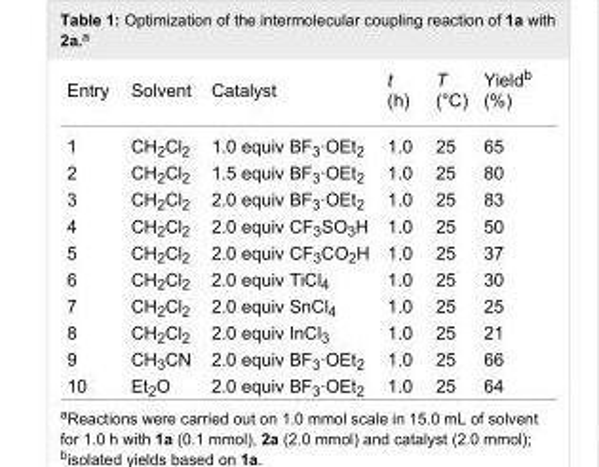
<table><tbody><tr><td>Entry</td><td>Solvent</td><td>Catalyst</td><td>t (h)</td><td>T (°C)</td><td>Yield<sup>b</sup> (%)</td></tr><tr><td>1</td><td>CH<sub>2</sub>Cl<sub>2</sub></td><td>1.0 equiv BF<sub>3</sub>·OEt<sub>2</sub></td><td>1.0</td><td>25</td><td>65</td></tr><tr><td>2</td><td>CH<sub>2</sub>Cl<sub>2</sub></td><td>1.5 equiv BF<sub>3</sub>·OEt<sub>2</sub></td><td>1.0</td><td>25</td><td>80</td></tr><tr><td>3</td><td>CH<sub>2</sub>Cl<sub>2</sub></td><td>2.0 equiv BF<sub>3</sub>·OEt<sub>2</sub></td><td>1.0</td><td>25</td><td>83</td></tr><tr><td>4</td><td>CH<sub>2</sub>Cl<sub>2</sub></td><td>2.0 equiv CF<sub>3</sub>SO<sub>3</sub>H</td><td>1.0</td><td>25</td><td>50</td></tr><tr><td>5</td><td>CH<sub>2</sub>Cl<sub>2</sub></td><td>2.0 equiv CF<sub>3</sub>CO<sub>2</sub>H</td><td>1.0</td><td>25</td><td>37</td></tr><tr><td>6</td><td>CH<sub>2</sub>Cl<sub>2</sub></td><td>2.0 equiv TiCl<sub>4</sub></td><td>1.0</td><td>25</td><td>30</td></tr><tr><td>7</td><td>CH<sub>2</sub>Cl<sub>2</sub></td><td>2.0 equiv SnCl<sub>4</sub></td><td>1.0</td><td>25</td><td>25</td></tr><tr><td>8</td><td>CH<sub>2</sub>Cl<sub>2</sub></td><td>2.0 equiv InCl<sub>3</sub></td><td>1.0</td><td>25</td><td>21</td></tr><tr><td>9</td><td>CH<sub>3</sub>CN</td><td>2.0 equiv BF<sub>3</sub>·OEt<sub>2</sub></td><td>1.0</td><td>25</td><td>66</td></tr><tr><td>10</td><td>Et<sub>2</sub>O</td><td>2.0 equiv BF<sub>3</sub>·OEt<sub>2</sub></td><td>1.0</td><td>25</td><td>64</td></tr></tbody></table>